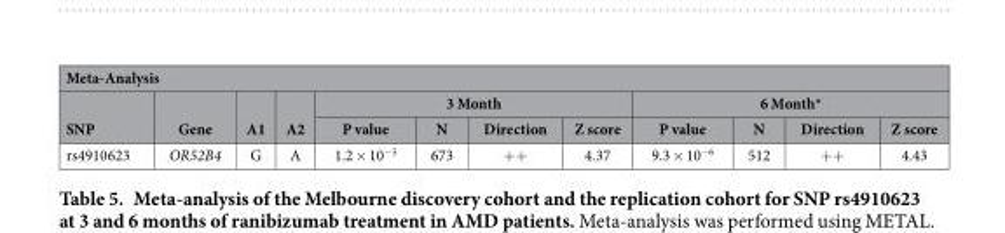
<table><thead><tr><td colspan="12">Meta-Analysis</td></tr><tr><td rowspan="2">SNP</td><td rowspan="2">Gene</td><td rowspan="2">A1</td><td rowspan="2">A2</td><td colspan="4">3 Month</td><td colspan="4">6 Month*</td></tr><tr><td>P value</td><td>N</td><td>Direction</td><td>Z score</td><td>P value</td><td>N</td><td>Direction</td><td>Z score</td></tr></thead><tbody><tr><td>rs4910623</td><td>OR52B4</td><td>G</td><td>A</td><td>1.2 × 10<sup>−5</sup></td><td>673</td><td>+ +</td><td>4.37</td><td>9.3 × 10<sup>−6</sup></td><td>512</td><td>+ +</td><td>4.43</td></tr></tbody></table>